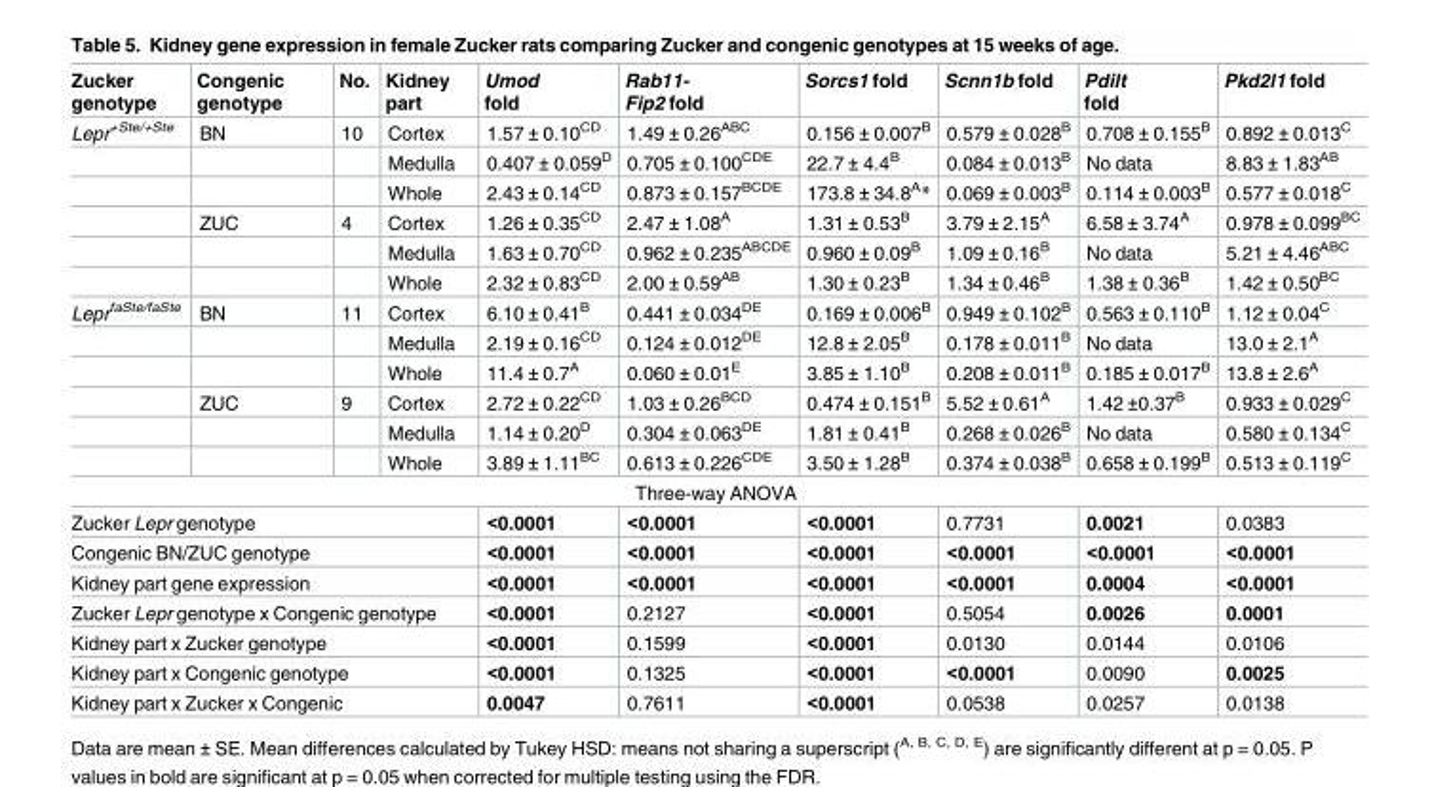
<table><thead><tr><td>Zucker genotype</td><td>Congenic genotype</td><td>No.</td><td>Kidney part</td><td>Umod fold</td><td>Rab11- Fip2 fold</td><td>Sorcs1 fold</td><td>Scnn1b fold</td><td>Pdilt fold</td><td>Pkd2l1 fold</td></tr></thead><tbody><tr><td rowspan="6">Lepr<sup>+Ste/+Ste</sup></td><td>BN</td><td>10</td><td>Cortex</td><td>1.57 ± 0.10<sup>CD</sup></td><td>1.49 ± 0.26<sup>ABC</sup></td><td>0.156 ± 0.007<sup>B</sup></td><td>0.579 ± 0.028<sup>B</sup></td><td>0.708 ± 0.155<sup>B</sup></td><td>0.892 ± 0.013<sup>C</sup></td></tr><tr><td></td><td></td><td>Medulla</td><td>0.407 ± 0.059<sup>D</sup></td><td>0.705 ± 0.100<sup>CDE</sup></td><td>22.7 ± 4.4<sup>B</sup></td><td>0.084 ± 0.013<sup>B</sup></td><td>No data</td><td>8.83 ± 1.83<sup>AB</sup></td></tr><tr><td></td><td></td><td>Whole</td><td>2.43 ± 0.14<sup>CD</sup></td><td>0.873 ± 0.157<sup>BCDE</sup></td><td>173.8 ± 34.8<sup>A</sup>*</td><td>0.069 ± 0.003<sup>B</sup></td><td>0.114 ± 0.003<sup>B</sup></td><td>0.577 ± 0.018<sup>C</sup></td></tr><tr><td>ZUC</td><td>4</td><td>Cortex</td><td>1.26 ± 0.35<sup>CD</sup></td><td>2.47 ± 1.08<sup>A</sup></td><td>1.31 ± 0.53<sup>B</sup></td><td>3.79 ± 2.15<sup>A</sup></td><td>6.58 ± 3.74<sup>A</sup></td><td>0.978 ± 0.099<sup>BC</sup></td></tr><tr><td></td><td></td><td>Medulla</td><td>1.63 ± 0.70<sup>CD</sup></td><td>0.962 ± 0.235<sup>ABCDE</sup></td><td>0.960 ± 0.09<sup>B</sup></td><td>1.09 ± 0.16<sup>B</sup></td><td>No data</td><td>5.21 ± 4.46<sup>ABC</sup></td></tr><tr><td></td><td></td><td>Whole</td><td>2.32 ± 0.83<sup>CD</sup></td><td>2.00 ± 0.59<sup>AB</sup></td><td>1.30 ± 0.23<sup>B</sup></td><td>1.34 ± 0.46<sup>B</sup></td><td>1.38 ± 0.36<sup>B</sup></td><td>1.42 ± 0.50<sup>BC</sup></td></tr><tr><td rowspan="6">Lepr<sup>faSte/faSte</sup></td><td>BN</td><td>11</td><td>Cortex</td><td>6.10 ± 0.41<sup>B</sup></td><td>0.441 ± 0.034<sup>DE</sup></td><td>0.169 ± 0.006<sup>B</sup></td><td>0.949 ± 0.102<sup>B</sup></td><td>0.563 ± 0.110<sup>B</sup></td><td>1.12 ± 0.04<sup>C</sup></td></tr><tr><td></td><td></td><td>Medulla</td><td>2.19 ± 0.16<sup>CD</sup></td><td>0.124 ± 0.012<sup>DE</sup></td><td>12.8 ± 2.05<sup>B</sup></td><td>0.178 ± 0.011<sup>B</sup></td><td>No data</td><td>13.0 ± 2.1<sup>A</sup></td></tr><tr><td></td><td></td><td>Whole</td><td>11.4 ± 0.7<sup>A</sup></td><td>0.060 ± 0.01<sup>E</sup></td><td>3.85 ± 1.10<sup>B</sup></td><td>0.208 ± 0.011<sup>B</sup></td><td>0.185 ± 0.017<sup>B</sup></td><td>13.8 ± 2.6<sup>A</sup></td></tr><tr><td>ZUC</td><td>9</td><td>Cortex</td><td>2.72 ± 0.22<sup>CD</sup></td><td>1.03 ± 0.26<sup>BCD</sup></td><td>0.474 ± 0.151<sup>B</sup></td><td>5.52 ± 0.61<sup>A</sup></td><td>1.42 ±0.37<sup>B</sup></td><td>0.933 ± 0.029<sup>C</sup></td></tr><tr><td></td><td></td><td>Medulla</td><td>1.14 ± 0.20<sup>D</sup></td><td>0.304 ± 0.063<sup>DE</sup></td><td>1.81 ± 0.41<sup>B</sup></td><td>0.268 ± 0.026<sup>B</sup></td><td>No data</td><td>0.580 ± 0.134<sup>C</sup></td></tr><tr><td></td><td></td><td>Whole</td><td>3.89 ± 1.11<sup>BC</sup></td><td>0.613 ± 0.226<sup>CDE</sup></td><td>3.50 ± 1.28<sup>B</sup></td><td>0.374 ± 0.038<sup>B</sup></td><td>0.658 ± 0.199<sup>B</sup></td><td>0.513 ± 0.119<sup>C</sup></td></tr><tr><td colspan="10">Three-way ANOVA</td></tr><tr><td colspan="4">Zucker Lepr genotype</td><td>&lt;0.0001</td><td>&lt;0.0001</td><td>&lt;0.0001</td><td>0.7731</td><td>0.0021</td><td>0.0383</td></tr><tr><td colspan="4">Congenic BN/ZUC genotype</td><td>&lt;0.0001</td><td>&lt;0.0001</td><td>&lt;0.0001</td><td>&lt;0.0001</td><td>&lt;0.0001</td><td>&lt;0.0001</td></tr><tr><td colspan="4">Kidney part gene expression</td><td>&lt;0.0001</td><td>&lt;0.0001</td><td>&lt;0.0001</td><td>&lt;0.0001</td><td>0.0004</td><td>&lt;0.0001</td></tr><tr><td colspan="4">Zucker Lepr genotype x Congenic genotype</td><td>&lt;0.0001</td><td>0.2127</td><td>&lt;0.0001</td><td>0.5054</td><td>0.0026</td><td>0.0001</td></tr><tr><td colspan="4">Kidney part x Zucker genotype</td><td>&lt;0.0001</td><td>0.1599</td><td>&lt;0.0001</td><td>0.0130</td><td>0.0144</td><td>0.0106</td></tr><tr><td colspan="4">Kidney part x Congenic genotype</td><td>&lt;0.0001</td><td>0.1325</td><td>&lt;0.0001</td><td>&lt;0.0001</td><td>0.0090</td><td>0.0025</td></tr><tr><td colspan="4">Kidney part x Zucker x Congenic</td><td>0.0047</td><td>0.7611</td><td>&lt;0.0001</td><td>0.0538</td><td>0.0257</td><td>0.0138</td></tr></tbody></table>